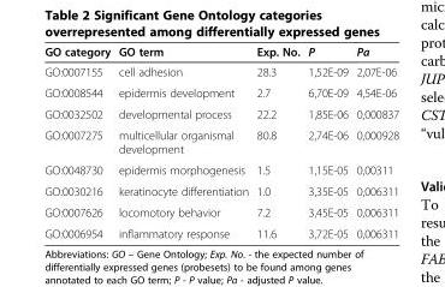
<table><thead><tr><td>GO category</td><td>GO term</td><td>Exp. No.</td><td>P</td><td>Pa</td></tr></thead><tbody><tr><td>GO:0007155</td><td>cell adhesion</td><td>28.3</td><td>1,52E-09</td><td>2,07E-06</td></tr><tr><td>GO:0008544</td><td>epidermis development</td><td>2.7</td><td>6,70E-09</td><td>4,54E-06</td></tr><tr><td>GO:0032502</td><td>developmental process</td><td>22.2</td><td>1,85E-06</td><td>0,000837</td></tr><tr><td>GO:0007275</td><td>multicellular organismal development</td><td>80.8</td><td>2,74E-06</td><td>0,000928</td></tr><tr><td>GO:0048730</td><td>epidermis morphogenesis</td><td>1.5</td><td>1,15E-05</td><td>0,00311</td></tr><tr><td>GO:0030216</td><td>keratinocyte differentiation</td><td>1.0</td><td>3,35E-05</td><td>0,006311</td></tr><tr><td>GO:0007626</td><td>locomotory behavior</td><td>7.2</td><td>3,45E-05</td><td>0,006311</td></tr><tr><td>GO:0006954</td><td>inflammatory response</td><td>11.6</td><td>3,72E-05</td><td>0,006311</td></tr></tbody></table>